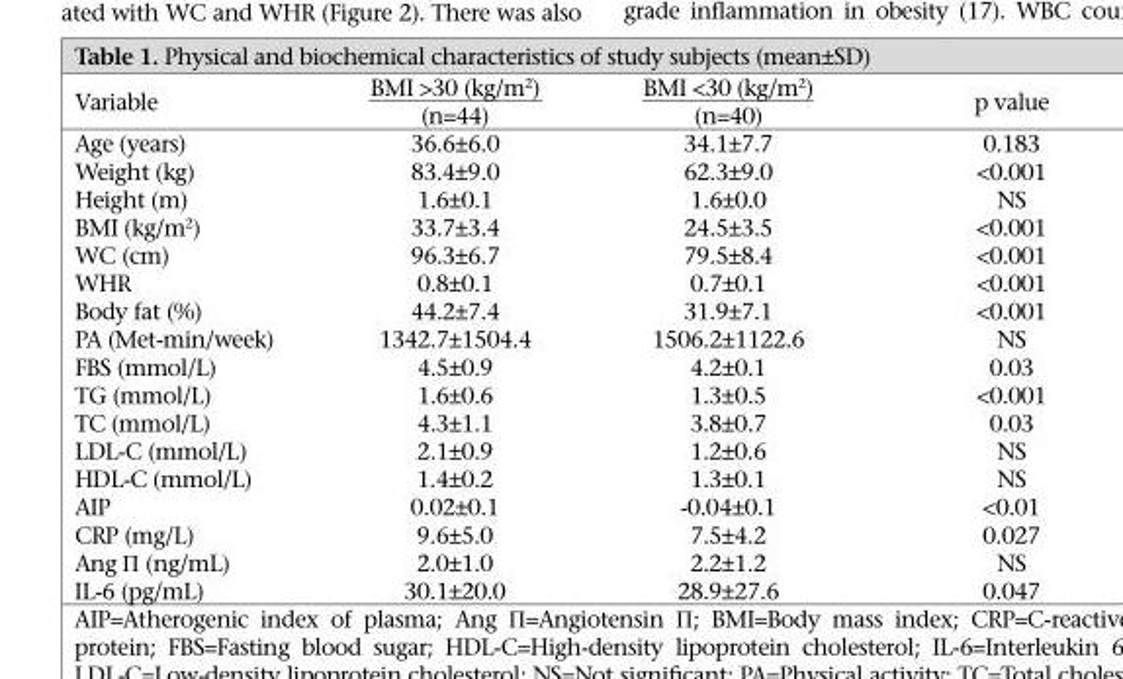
<table><thead><tr><td rowspan="2">Variable</td><td rowspan="2">BMI &gt;30 (kg/m<sup>2</sup>) (n=44)</td><td rowspan="2">BMI &lt;30 (kg/m<sup>2</sup>) (n=40)</td><td rowspan="2">p value</td></tr><tr></tr></thead><tbody><tr><td>Age (years)</td><td>36.6±6.0</td><td>34.1±7.7</td><td>0.183</td></tr><tr><td>Weight (kg)</td><td>83.4±9.0</td><td>62.3±9.0</td><td>&lt;0.001</td></tr><tr><td>Height (m)</td><td>1.6±0.1</td><td>1.6±0.0</td><td>NS</td></tr><tr><td>BMI (kg/m<sup>2</sup>)</td><td>33.7±3.4</td><td>24.5±3.5</td><td>&lt;0.001</td></tr><tr><td>WC (cm)</td><td>96.3±6.7</td><td>79.5±8.4</td><td>&lt;0.001</td></tr><tr><td>WHR</td><td>0.8±0.1</td><td>0.7±0.1</td><td>&lt;0.001</td></tr><tr><td>Body fat (%)</td><td>44.2±7.4</td><td>31.9±7.1</td><td>&lt;0.001</td></tr><tr><td>PA (Met-min/week)</td><td>1342.7±1504.4</td><td>1506.2±1122.6</td><td>NS</td></tr><tr><td>FBS (mmol/L)</td><td>4.5±0.9</td><td>4.2±0.1</td><td>0.03</td></tr><tr><td>TG (mmol/L)</td><td>1.6±0.6</td><td>1.3±0.5</td><td>&lt;0.001</td></tr><tr><td>TC (mmol/L)</td><td>4.3±1.1</td><td>3.8±0.7</td><td>0.03</td></tr><tr><td>LDL-C (mmol/L)</td><td>2.1±0.9</td><td>1.2±0.6</td><td>NS</td></tr><tr><td>HDL-C (mmol/L)</td><td>1.4±0.2</td><td>1.3±0.1</td><td>NS</td></tr><tr><td>AIP</td><td>0.02±0.1</td><td>-0.04±0.1</td><td>&lt;0.01</td></tr><tr><td>CRP (mg/L)</td><td>9.6±5.0</td><td>7.5±4.2</td><td>0.027</td></tr><tr><td>Ang Π (ng/mL)</td><td>2.0±1.0</td><td>2.2±1.2</td><td>NS</td></tr><tr><td>IL-6 (pg/mL)</td><td>30.1±20.0</td><td>28.9±27.6</td><td>0.047</td></tr></tbody></table>